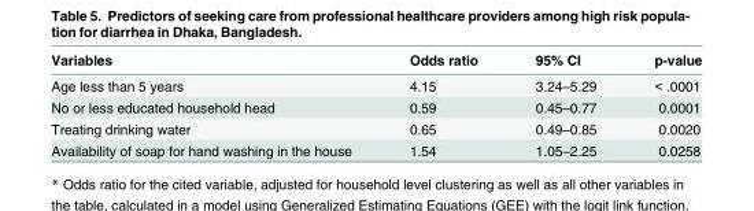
<table><thead><tr><td>Variables</td><td>Odds ratio</td><td>95% CI</td><td>p-value</td></tr></thead><tbody><tr><td>Age less than 5 years</td><td>4.15</td><td>3.24–5.29</td><td>&lt; .0001</td></tr><tr><td>No or less educated household head</td><td>0.59</td><td>0.45–0.77</td><td>0.0001</td></tr><tr><td>Treating drinking water</td><td>0.65</td><td>0.49–0.85</td><td>0.0020</td></tr><tr><td>Availability of soap for hand washing in the house</td><td>1.54</td><td>1.05–2.25</td><td>0.0258</td></tr></tbody></table>